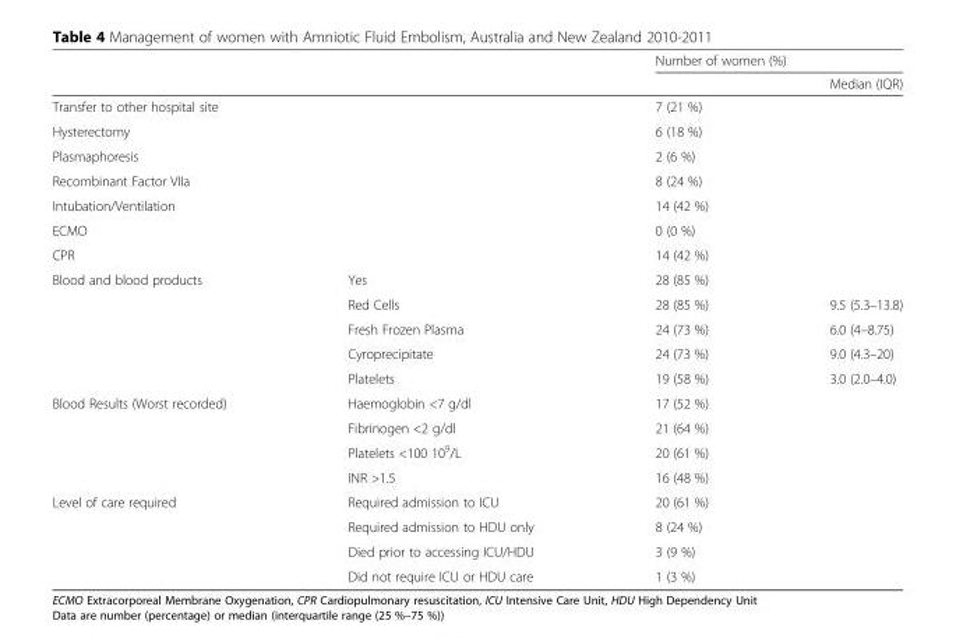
<table><thead><tr><td rowspan="2"></td><td rowspan="2"></td><td colspan="2">Number of women (%)</td></tr><tr><td></td><td>Median (IQR)</td></tr></thead><tbody><tr><td>Transfer to other hospital site</td><td></td><td colspan="2">7 (21 %)</td></tr><tr><td>Hysterectomy</td><td></td><td colspan="2">6 (18 %)</td></tr><tr><td>Plasmaphoresis</td><td></td><td colspan="2">2 (6 %)</td></tr><tr><td>Recombinant Factor VIIa</td><td></td><td colspan="2">8 (24 %)</td></tr><tr><td>Intubation/Ventilation</td><td></td><td colspan="2">14 (42 %)</td></tr><tr><td>ECMO</td><td></td><td colspan="2">0 (0 %)</td></tr><tr><td>CPR</td><td></td><td colspan="2">14 (42 %)</td></tr><tr><td rowspan="5">Blood and blood products</td><td>Yes</td><td colspan="2">28 (85 %)</td></tr><tr><td>Red Cells</td><td>28 (85 %)</td><td>9.5 (5.3–13.8)</td></tr><tr><td>Fresh Frozen Plasma</td><td>24 (73 %)</td><td>6.0 (4–8.75)</td></tr><tr><td>Cyroprecipitate</td><td>24 (73 %)</td><td>9.0 (4.3–20)</td></tr><tr><td>Platelets</td><td>19 (58 %)</td><td>3.0 (2.0–4.0)</td></tr><tr><td rowspan="4">Blood Results (Worst recorded)</td><td>Haemoglobin &lt;7 g/dl</td><td colspan="2">17 (52 %)</td></tr><tr><td>Fibrinogen &lt;2 g/dl</td><td colspan="2">21 (64 %)</td></tr><tr><td>Platelets &lt;100 10<sup>9</sup>/L</td><td colspan="2">20 (61 %)</td></tr><tr><td>INR &gt;1.5</td><td colspan="2">16 (48 %)</td></tr><tr><td rowspan="4">Level of care required</td><td>Required admission to ICU</td><td colspan="2">20 (61 %)</td></tr><tr><td>Required admission to HDU only</td><td colspan="2">8 (24 %)</td></tr><tr><td>Died prior to accessing ICU/HDU</td><td colspan="2">3 (9 %)</td></tr><tr><td>Did not require ICU or HDU care</td><td colspan="2">1 (3 %)</td></tr></tbody></table>